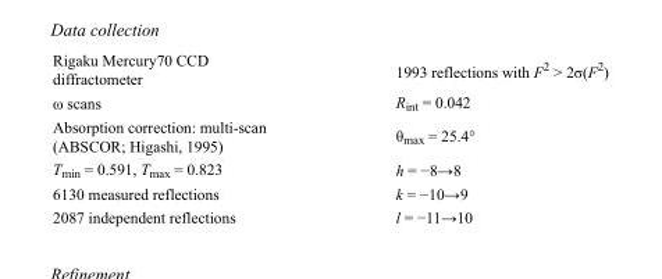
<table><tbody><tr><td>Rigaku Mercury70 CCD diffractometer</td><td>1993 reflections with F<sup>2</sup> &gt; 2σ(F<sup>2</sup>)</td></tr><tr><td>ω scans</td><td>R<sub>int</sub> = 0.042</td></tr><tr><td>Absorption correction: multi-scan (ABSCOR; Higashi, 1995)</td><td>θ<sub>max</sub> = 25.4°</td></tr><tr><td>T<sub>min</sub> = 0.591, T<sub>max</sub> = 0.823</td><td>h = −8→8</td></tr><tr><td>6130 measured reflections</td><td>k = −10→9</td></tr><tr><td>2087 independent reflections</td><td>l = −11→10</td></tr></tbody></table>